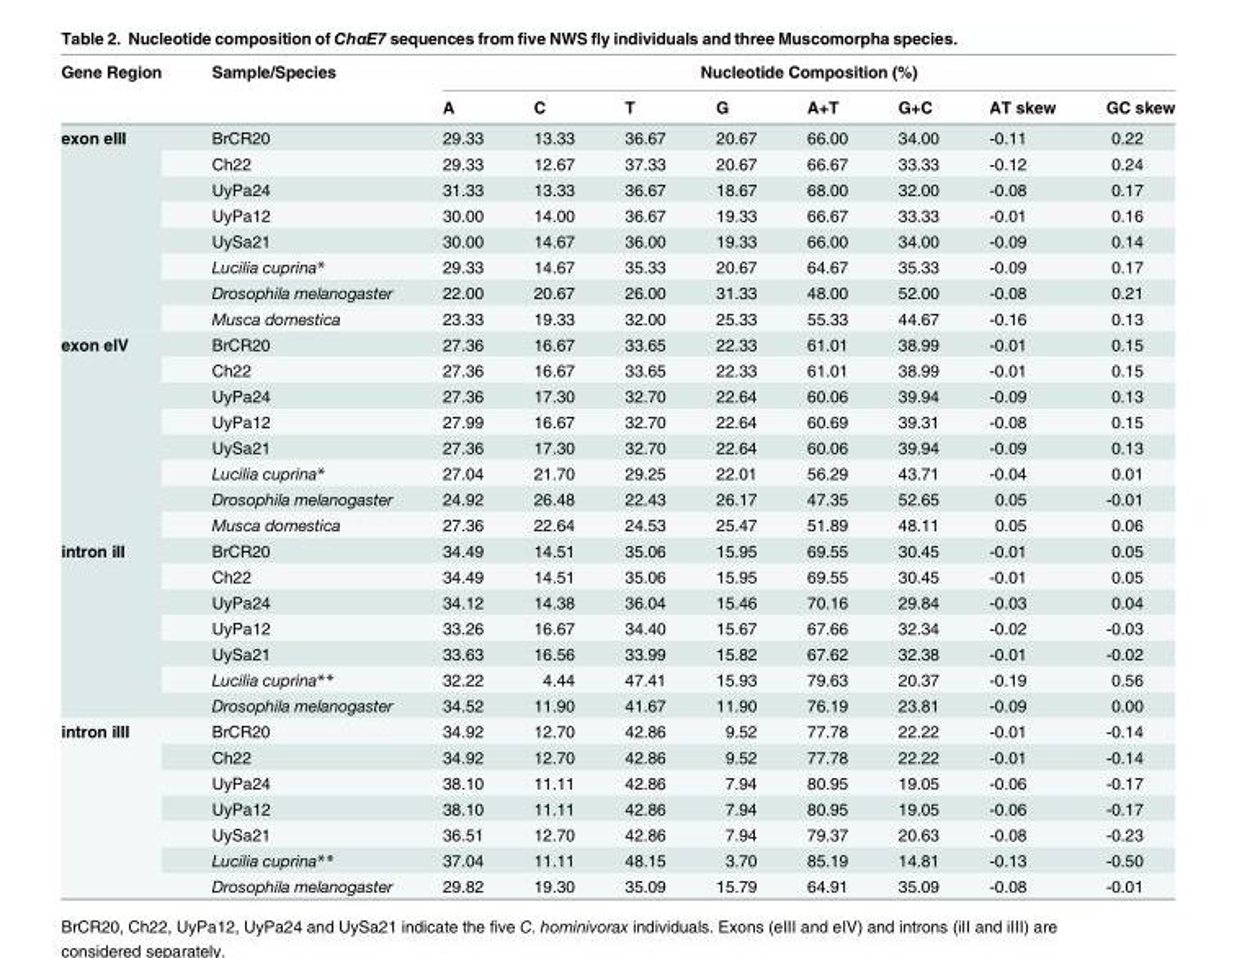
<table><thead><tr><td rowspan="2">Gene Region</td><td rowspan="2">Sample/Species</td><td colspan="8">Nucleotide Composition (%)</td></tr><tr><td>A</td><td>C</td><td>T</td><td>G</td><td>A+T</td><td>G+C</td><td>AT skew</td><td>GC skew</td></tr></thead><tbody><tr><td rowspan="8">exon eIII</td><td>BrCR20</td><td>29.33</td><td>13.33</td><td>36.67</td><td>20.67</td><td>66.00</td><td>34.00</td><td>-0.11</td><td>0.22</td></tr><tr><td>Ch22</td><td>29.33</td><td>12.67</td><td>37.33</td><td>20.67</td><td>66.67</td><td>33.33</td><td>-0.12</td><td>0.24</td></tr><tr><td>UyPa24</td><td>31.33</td><td>13.33</td><td>36.67</td><td>18.67</td><td>68.00</td><td>32.00</td><td>-0.08</td><td>0.17</td></tr><tr><td>UyPa12</td><td>30.00</td><td>14.00</td><td>36.67</td><td>19.33</td><td>66.67</td><td>33.33</td><td>-0.01</td><td>0.16</td></tr><tr><td>UySa21</td><td>30.00</td><td>14.67</td><td>36.00</td><td>19.33</td><td>66.00</td><td>34.00</td><td>-0.09</td><td>0.14</td></tr><tr><td>Lucilia cuprina*</td><td>29.33</td><td>14.67</td><td>35.33</td><td>20.67</td><td>64.67</td><td>35.33</td><td>-0.09</td><td>0.17</td></tr><tr><td>Drosophila melanogaster</td><td>22.00</td><td>20.67</td><td>26.00</td><td>31.33</td><td>48.00</td><td>52.00</td><td>-0.08</td><td>0.21</td></tr><tr><td>Musca domestica</td><td>23.33</td><td>19.33</td><td>32.00</td><td>25.33</td><td>55.33</td><td>44.67</td><td>-0.16</td><td>0.13</td></tr><tr><td rowspan="8">exon eIV</td><td>BrCR20</td><td>27.36</td><td>16.67</td><td>33.65</td><td>22.33</td><td>61.01</td><td>38.99</td><td>-0.01</td><td>0.15</td></tr><tr><td>Ch22</td><td>27.36</td><td>16.67</td><td>33.65</td><td>22.33</td><td>61.01</td><td>38.99</td><td>-0.01</td><td>0.15</td></tr><tr><td>UyPa24</td><td>27.36</td><td>17.30</td><td>32.70</td><td>22.64</td><td>60.06</td><td>39.94</td><td>-0.09</td><td>0.13</td></tr><tr><td>UyPa12</td><td>27.99</td><td>16.67</td><td>32.70</td><td>22.64</td><td>60.69</td><td>39.31</td><td>-0.08</td><td>0.15</td></tr><tr><td>UySa21</td><td>27.36</td><td>17.30</td><td>32.70</td><td>22.64</td><td>60.06</td><td>39.94</td><td>-0.09</td><td>0.13</td></tr><tr><td>Lucilia cuprina*</td><td>27.04</td><td>21.70</td><td>29.25</td><td>22.01</td><td>56.29</td><td>43.71</td><td>-0.04</td><td>0.01</td></tr><tr><td>Drosophila melanogaster</td><td>24.92</td><td>26.48</td><td>22.43</td><td>26.17</td><td>47.35</td><td>52.65</td><td>0.05</td><td>-0.01</td></tr><tr><td>Musca domestica</td><td>27.36</td><td>22.64</td><td>24.53</td><td>25.47</td><td>51.89</td><td>48.11</td><td>0.05</td><td>0.06</td></tr><tr><td rowspan="7">intron iII</td><td>BrCR20</td><td>34.49</td><td>14.51</td><td>35.06</td><td>15.95</td><td>69.55</td><td>30.45</td><td>-0.01</td><td>0.05</td></tr><tr><td>Ch22</td><td>34.49</td><td>14.51</td><td>35.06</td><td>15.95</td><td>69.55</td><td>30.45</td><td>-0.01</td><td>0.05</td></tr><tr><td>UyPa24</td><td>34.12</td><td>14.38</td><td>36.04</td><td>15.46</td><td>70.16</td><td>29.84</td><td>-0.03</td><td>0.04</td></tr><tr><td>UyPa12</td><td>33.26</td><td>16.67</td><td>34.40</td><td>15.67</td><td>67.66</td><td>32.34</td><td>-0.02</td><td>-0.03</td></tr><tr><td>UySa21</td><td>33.63</td><td>16.56</td><td>33.99</td><td>15.82</td><td>67.62</td><td>32.38</td><td>-0.01</td><td>-0.02</td></tr><tr><td>Lucilia cuprina**</td><td>32.22</td><td>4.44</td><td>47.41</td><td>15.93</td><td>79.63</td><td>20.37</td><td>-0.19</td><td>0.56</td></tr><tr><td>Drosophila melanogaster</td><td>34.52</td><td>11.90</td><td>41.67</td><td>11.90</td><td>76.19</td><td>23.81</td><td>-0.09</td><td>0.00</td></tr><tr><td rowspan="7">intron iIII</td><td>BrCR20</td><td>34.92</td><td>12.70</td><td>42.86</td><td>9.52</td><td>77.78</td><td>22.22</td><td>-0.01</td><td>-0.14</td></tr><tr><td>Ch22</td><td>34.92</td><td>12.70</td><td>42.86</td><td>9.52</td><td>77.78</td><td>22.22</td><td>-0.01</td><td>-0.14</td></tr><tr><td>UyPa24</td><td>38.10</td><td>11.11</td><td>42.86</td><td>7.94</td><td>80.95</td><td>19.05</td><td>-0.06</td><td>-0.17</td></tr><tr><td>UyPa12</td><td>38.10</td><td>11.11</td><td>42.86</td><td>7.94</td><td>80.95</td><td>19.05</td><td>-0.06</td><td>-0.17</td></tr><tr><td>UySa21</td><td>36.51</td><td>12.70</td><td>42.86</td><td>7.94</td><td>79.37</td><td>20.63</td><td>-0.08</td><td>-0.23</td></tr><tr><td>Lucilia cuprina**</td><td>37.04</td><td>11.11</td><td>48.15</td><td>3.70</td><td>85.19</td><td>14.81</td><td>-0.13</td><td>-0.50</td></tr><tr><td>Drosophila melanogaster</td><td>29.82</td><td>19.30</td><td>35.09</td><td>15.79</td><td>64.91</td><td>35.09</td><td>-0.08</td><td>-0.01</td></tr></tbody></table>